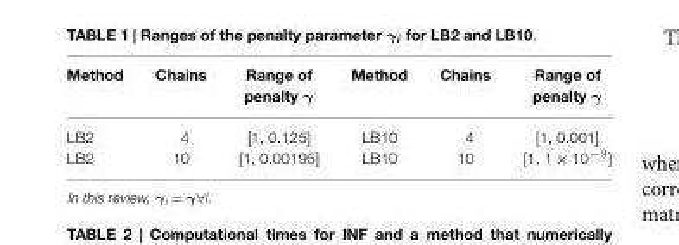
<table><thead><tr><td>Method</td><td>Chains</td><td>Range of penalty γ</td><td>Method</td><td>Chains</td><td>Range of penalty γ</td></tr></thead><tbody><tr><td>LB2</td><td>4</td><td>[1, 0.125]</td><td>LB10</td><td>4</td><td>[1, 0.001]</td></tr><tr><td>LB2</td><td>10</td><td>[1, 0.00195]</td><td>LB10</td><td>10</td><td>[1, 1 × 10<sup>−9</sup>]</td></tr></tbody></table>